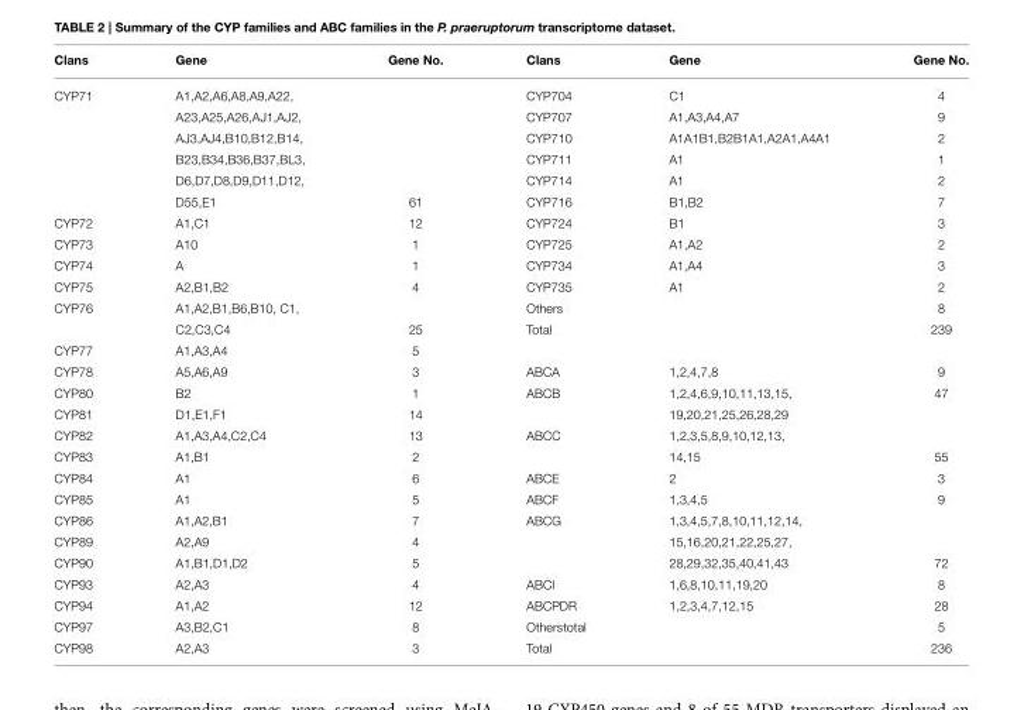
<table><thead><tr><td>Clans</td><td>Gene</td><td>Gene No.</td><td>Clans</td><td>Gene</td><td>Gene No.</td></tr></thead><tbody><tr><td rowspan="6">CYP71</td><td>A1,A2,A6,A8,A9,A22,</td><td></td><td>CYP704</td><td>C1</td><td>4</td></tr><tr><td>A23,A25,A26,AJ1,AJ2,</td><td></td><td>CYP707</td><td>A1,A3,A4,A7</td><td>9</td></tr><tr><td>AJ3,AJ4,B10,B12,B14,</td><td></td><td>CYP710</td><td>A1A1B1,B2B1A1,A2A1,A4A1</td><td>2</td></tr><tr><td>B23,B34,B36,B37,BL3,</td><td></td><td>CYP711</td><td>A1</td><td>1</td></tr><tr><td>D6,D7,D8,D9,D11,D12,</td><td></td><td>CYP714</td><td>A1</td><td>2</td></tr><tr><td>D55,E1</td><td>61</td><td>CYP716</td><td>B1,B2</td><td>7</td></tr><tr><td>CYP72</td><td>A1,C1</td><td>12</td><td>CYP724</td><td>B1</td><td>3</td></tr><tr><td>CYP73</td><td>A10</td><td>1</td><td>CYP725</td><td>A1,A2</td><td>2</td></tr><tr><td>CYP74</td><td>A</td><td>1</td><td>CYP734</td><td>A1,A4</td><td>3</td></tr><tr><td>CYP75</td><td>A2,B1,B2</td><td>4</td><td>CYP735</td><td>A1</td><td>2</td></tr><tr><td rowspan="2">CYP76</td><td>A1,A2,B1,B6,B10, C1,</td><td></td><td>Others</td><td></td><td>8</td></tr><tr><td>C2,C3,C4</td><td>25</td><td>Total</td><td></td><td>239</td></tr><tr><td>CYP77</td><td>A1,A3,A4</td><td>5</td><td></td><td></td><td></td></tr><tr><td>CYP78</td><td>A5,A6,A9</td><td>3</td><td>ABCA</td><td>1,2,4,7,8</td><td>9</td></tr><tr><td>CYP80</td><td>B2</td><td>1</td><td>ABCB</td><td>1,2,4,6,9,10,11,13,15,</td><td>47</td></tr><tr><td>CYP81</td><td>D1,E1,F1</td><td>14</td><td></td><td>19,20,21,25,26,28,29</td><td></td></tr><tr><td>CYP82</td><td>A1,A3,A4,C2,C4</td><td>13</td><td>ABCC</td><td>1,2,3,5,8,9,10,12,13,</td><td></td></tr><tr><td>CYP83</td><td>A1,B1</td><td>2</td><td></td><td>14,15</td><td>55</td></tr><tr><td>CYP84</td><td>A1</td><td>6</td><td>ABCE</td><td>2</td><td>3</td></tr><tr><td>CYP85</td><td>A1</td><td>5</td><td>ABCF</td><td>1,3,4,5</td><td>9</td></tr><tr><td>CYP86</td><td>A1,A2,B1</td><td>7</td><td>ABCG</td><td>1,3,4,5,7,8,10,11,12,14,</td><td></td></tr><tr><td>CYP89</td><td>A2,A9</td><td>4</td><td></td><td>15,16,20,21,22,25,27,</td><td></td></tr><tr><td>CYP90</td><td>A1,B1,D1,D2</td><td>5</td><td></td><td>28,29,32,35,40,41,43</td><td>72</td></tr><tr><td>CYP93</td><td>A2,A3</td><td>4</td><td>ABCI</td><td>1,6,8,10,11,19,20</td><td>8</td></tr><tr><td>CYP94</td><td>A1,A2</td><td>12</td><td>ABCPDR</td><td>1,2,3,4,7,12,15</td><td>28</td></tr><tr><td>CYP97</td><td>A3,B2,C1</td><td>8</td><td>Otherstotal</td><td></td><td>5</td></tr><tr><td>CYP98</td><td>A2,A3</td><td>3</td><td>Total</td><td></td><td>236</td></tr></tbody></table>